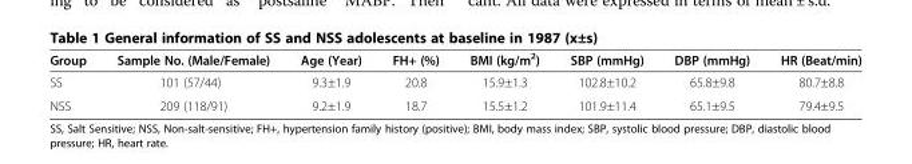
<table><thead><tr><td>Group</td><td>Sample No. (Male/Female)</td><td>Age (Year)</td><td>FH+ (%)</td><td>BMI (kg/m<sup>2</sup>)</td><td>SBP (mmHg)</td><td>DBP (mmHg)</td><td>HR (Beat/min)</td></tr></thead><tbody><tr><td>SS</td><td>101 (57/44)</td><td>9.3±1.9</td><td>20.8</td><td>15.9±1.3</td><td>102.8±10.2</td><td>65.8±9.8</td><td>80.7±8.8</td></tr><tr><td>NSS</td><td>209 (118/91)</td><td>9.2±1.9</td><td>18.7</td><td>15.5±1.2</td><td>101.9±11.4</td><td>65.1±9.5</td><td>79.4±9.5</td></tr></tbody></table>